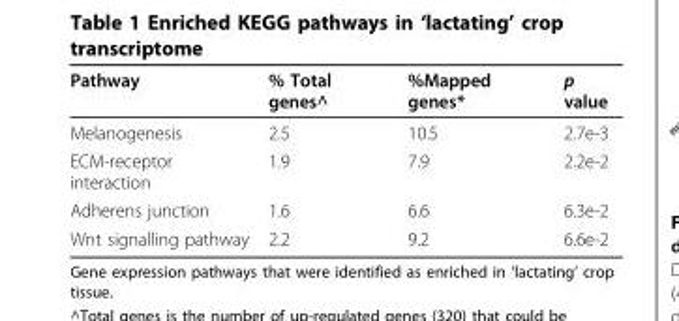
<table><thead><tr><td>Pathway</td><td>% Total genes^</td><td>%Mapped genes*</td><td>p value</td></tr></thead><tbody><tr><td>Melanogenesis</td><td>2.5</td><td>10.5</td><td>2.7e-3</td></tr><tr><td>ECM-receptor interaction</td><td>1.9</td><td>7.9</td><td>2.2e-2</td></tr><tr><td>Adherens junction</td><td>1.6</td><td>6.6</td><td>6.3e-2</td></tr><tr><td>Wnt signalling pathway</td><td>2.2</td><td>9.2</td><td>6.6e-2</td></tr></tbody></table>